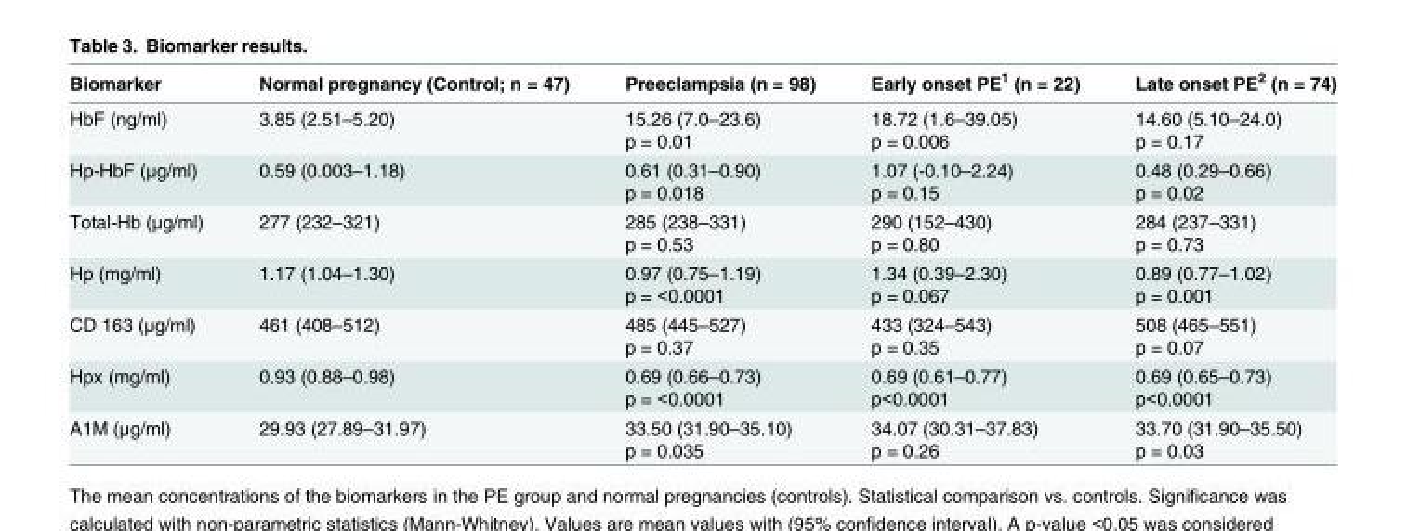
<table><thead><tr><td>Biomarker</td><td>Normal pregnancy (Control; n = 47)</td><td>Preeclampsia (n = 98)</td><td>Early onset PE<sup>1</sup> (n = 22)</td><td>Late onset PE<sup>2</sup> (n = 74)</td></tr></thead><tbody><tr><td>HbF (ng/ml)</td><td>3.85 (2.51–5.20)</td><td>15.26 (7.0–23.6) p = 0.01</td><td>18.72 (1.6–39.05) p = 0.006</td><td>14.60 (5.10–24.0) p = 0.17</td></tr><tr><td>Hp-HbF (μg/ml)</td><td>0.59 (0.003–1.18)</td><td>0.61 (0.31–0.90) p = 0.018</td><td>1.07 (-0.10–2.24) p = 0.15</td><td>0.48 (0.29–0.66) p = 0.02</td></tr><tr><td>Total-Hb (μg/ml)</td><td>277 (232–321)</td><td>285 (238–331) p = 0.53</td><td>290 (152–430) p = 0.80</td><td>284 (237–331) p = 0.73</td></tr><tr><td>Hp (mg/ml)</td><td>1.17 (1.04–1.30)</td><td>0.97 (0.75–1.19) p = &lt;0.0001</td><td>1.34 (0.39–2.30) p = 0.067</td><td>0.89 (0.77–1.02) p = 0.001</td></tr><tr><td>CD 163 (μg/ml)</td><td>461 (408–512)</td><td>485 (445–527) p = 0.37</td><td>433 (324–543) p = 0.35</td><td>508 (465–551) p = 0.07</td></tr><tr><td>Hpx (mg/ml)</td><td>0.93 (0.88–0.98)</td><td>0.69 (0.66–0.73) p = &lt;0.0001</td><td>0.69 (0.61–0.77) p&lt;0.0001</td><td>0.69 (0.65–0.73) p&lt;0.0001</td></tr><tr><td>A1M (μg/ml)</td><td>29.93 (27.89–31.97)</td><td>33.50 (31.90–35.10) p = 0.035</td><td>34.07 (30.31–37.83) p = 0.26</td><td>33.70 (31.90–35.50) p = 0.03</td></tr></tbody></table>